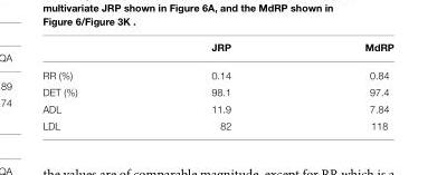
<table><thead><tr><td></td><td>JRP</td><td>MdRP</td></tr></thead><tbody><tr><td>RR (%)</td><td>0.14</td><td>0.84</td></tr><tr><td>DET (%)</td><td>98.1</td><td>97.4</td></tr><tr><td>ADL</td><td>11.9</td><td>7.84</td></tr><tr><td>LDL</td><td>82</td><td>118</td></tr></tbody></table>